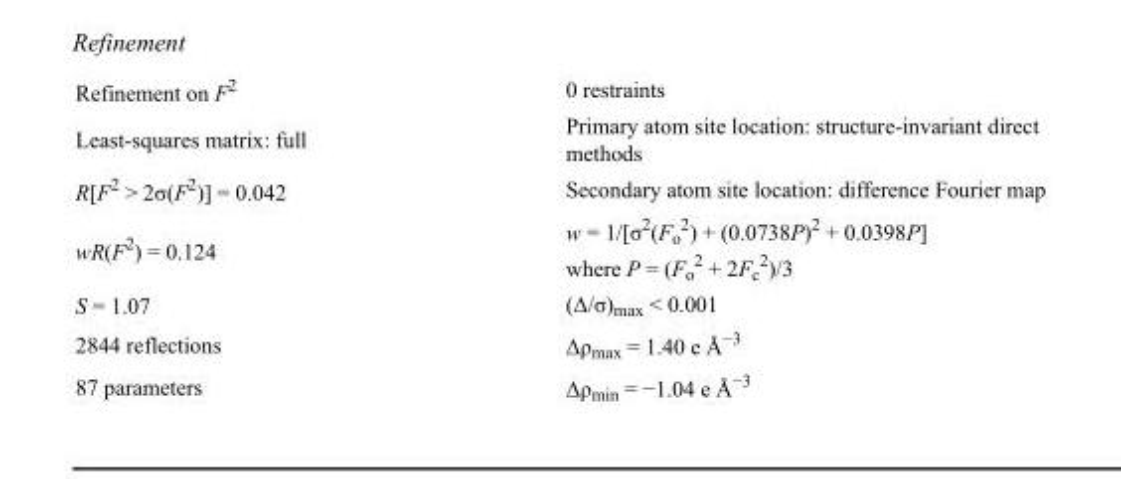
<table><tbody><tr><td>Refinement on F<sup>2</sup></td><td>0 restraints</td></tr><tr><td>Least-squares matrix: full</td><td>Primary atom site location: structure-invariant direct methods</td></tr><tr><td>R[F<sup>2</sup> &gt; 2σ(F<sup>2</sup>)] = 0.042</td><td>Secondary atom site location: difference Fourier map</td></tr><tr><td>wR(F<sup>2</sup>) = 0.124</td><td>w = 1/[σ<sup>2</sup>(F<sub>o</sub> <sup>2</sup>) + (0.0738P)<sup>2</sup> + 0.0398P] where P = (F<sub>o</sub> <sup>2</sup> + 2F<sub>c</sub> <sup>2</sup>)/3</td></tr><tr><td>S = 1.07</td><td>(Δ/σ)<sub>max</sub> &lt; 0.001</td></tr><tr><td>2844 reflections</td><td>Δρ<sub>max</sub> = 1.40 e Å<sup>−3</sup></td></tr><tr><td>87 parameters</td><td>Δρ<sub>min</sub> = −1.04 e Å<sup>−3</sup></td></tr></tbody></table>